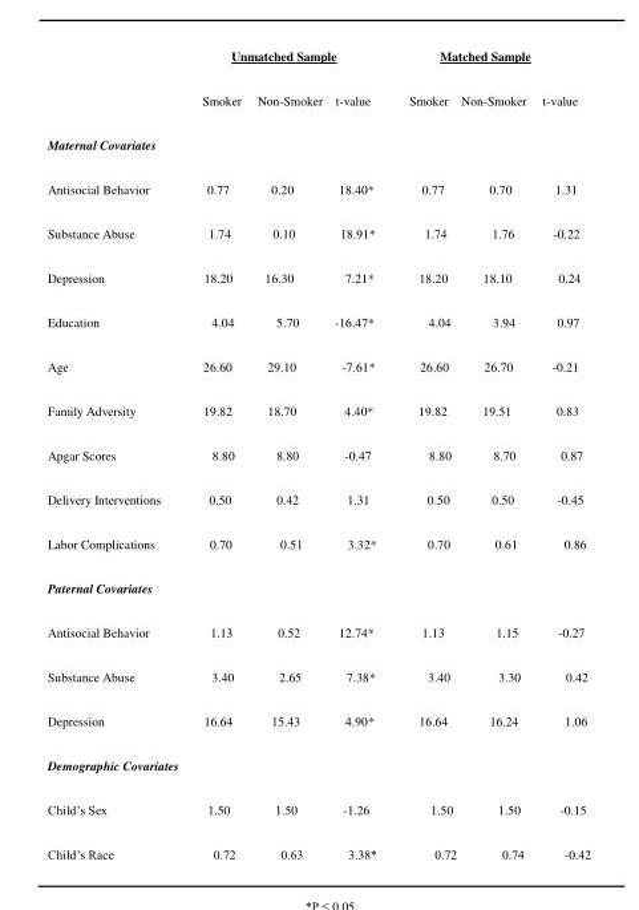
<table><thead><tr><td rowspan="2"></td><td colspan="3">Unmatched Sample</td><td colspan="3">Matched Sample</td></tr><tr><td>Smoker</td><td>Non-Smoker</td><td>t-value</td><td>Smoker</td><td>Non-Smoker</td><td>t-value</td></tr></thead><tbody><tr><td colspan="7">Maternal Covariates</td></tr><tr><td>Antisocial Behavior</td><td>0.77</td><td>0.20</td><td>18.40*</td><td>0.77</td><td>0.70</td><td>1.31</td></tr><tr><td>Substance Abuse</td><td>1.74</td><td>0.10</td><td>18.91*</td><td>1.74</td><td>1.76</td><td>-0.22</td></tr><tr><td>Depression</td><td>18.20</td><td>16.30</td><td>7.21*</td><td>18.20</td><td>18.10</td><td>0.24</td></tr><tr><td>Education</td><td>4.04</td><td>5.70</td><td>-16.47*</td><td>4.04</td><td>3.94</td><td>0.97</td></tr><tr><td>Age</td><td>26.60</td><td>29.10</td><td>-7.61*</td><td>26.60</td><td>26.70</td><td>-0.21</td></tr><tr><td>Family Adversity</td><td>19.82</td><td>18.70</td><td>4.40*</td><td>19.82</td><td>19.51</td><td>0.83</td></tr><tr><td>Apgar Scores</td><td>8.80</td><td>8.80</td><td>-0.47</td><td>8.80</td><td>8.70</td><td>0.87</td></tr><tr><td>Delivery Interventions</td><td>0.50</td><td>0.42</td><td>1.31</td><td>0.50</td><td>0.50</td><td>-0.45</td></tr><tr><td>Labor Complications</td><td>0.70</td><td>0.51</td><td>3.32*</td><td>0.70</td><td>0.61</td><td>0.86</td></tr><tr><td colspan="7">Paternal Covariates</td></tr><tr><td>Antisocial Behavior</td><td>1.13</td><td>0.52</td><td>12.74*</td><td>1.13</td><td>1.15</td><td>-0.27</td></tr><tr><td>Substance Abuse</td><td>3.40</td><td>2.65</td><td>7.38*</td><td>3.40</td><td>3.30</td><td>0.42</td></tr><tr><td>Depression</td><td>16.64</td><td>15.43</td><td>4.90*</td><td>16.64</td><td>16.24</td><td>1.06</td></tr><tr><td colspan="7">Demographic Covariates</td></tr><tr><td>Child’s Sex</td><td>1.50</td><td>1.50</td><td>-1.26</td><td>1.50</td><td>1.50</td><td>-0.15</td></tr><tr><td>Child’s Race</td><td>0.72</td><td>0.63</td><td>3.38*</td><td>0.72</td><td>0.74</td><td>-0.42</td></tr></tbody></table>